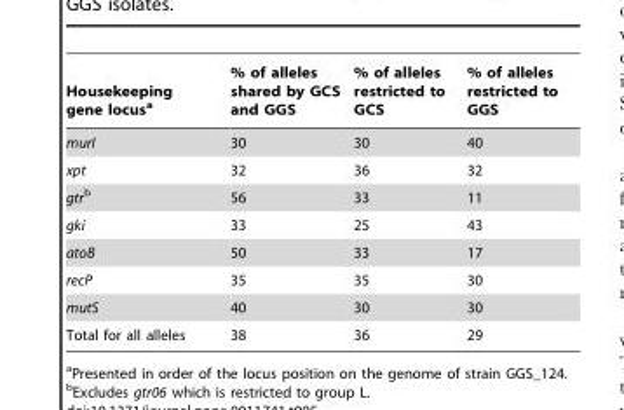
<table><thead><tr><td>Housekeeping gene locus<sup>a</sup></td><td>% of alleles shared by GCS and GGS</td><td>% of alleles restricted to GCS</td><td>% of alleles restricted to GGS</td></tr></thead><tbody><tr><td>murI</td><td>30</td><td>30</td><td>40</td></tr><tr><td>xpt</td><td>32</td><td>36</td><td>32</td></tr><tr><td>gtrb</td><td>56</td><td>33</td><td>11</td></tr><tr><td>gki</td><td>33</td><td>25</td><td>43</td></tr><tr><td>atoB</td><td>50</td><td>33</td><td>17</td></tr><tr><td>recP</td><td>35</td><td>35</td><td>30</td></tr><tr><td>mutS</td><td>40</td><td>30</td><td>30</td></tr><tr><td>Total for all alleles</td><td>38</td><td>36</td><td>29</td></tr></tbody></table>